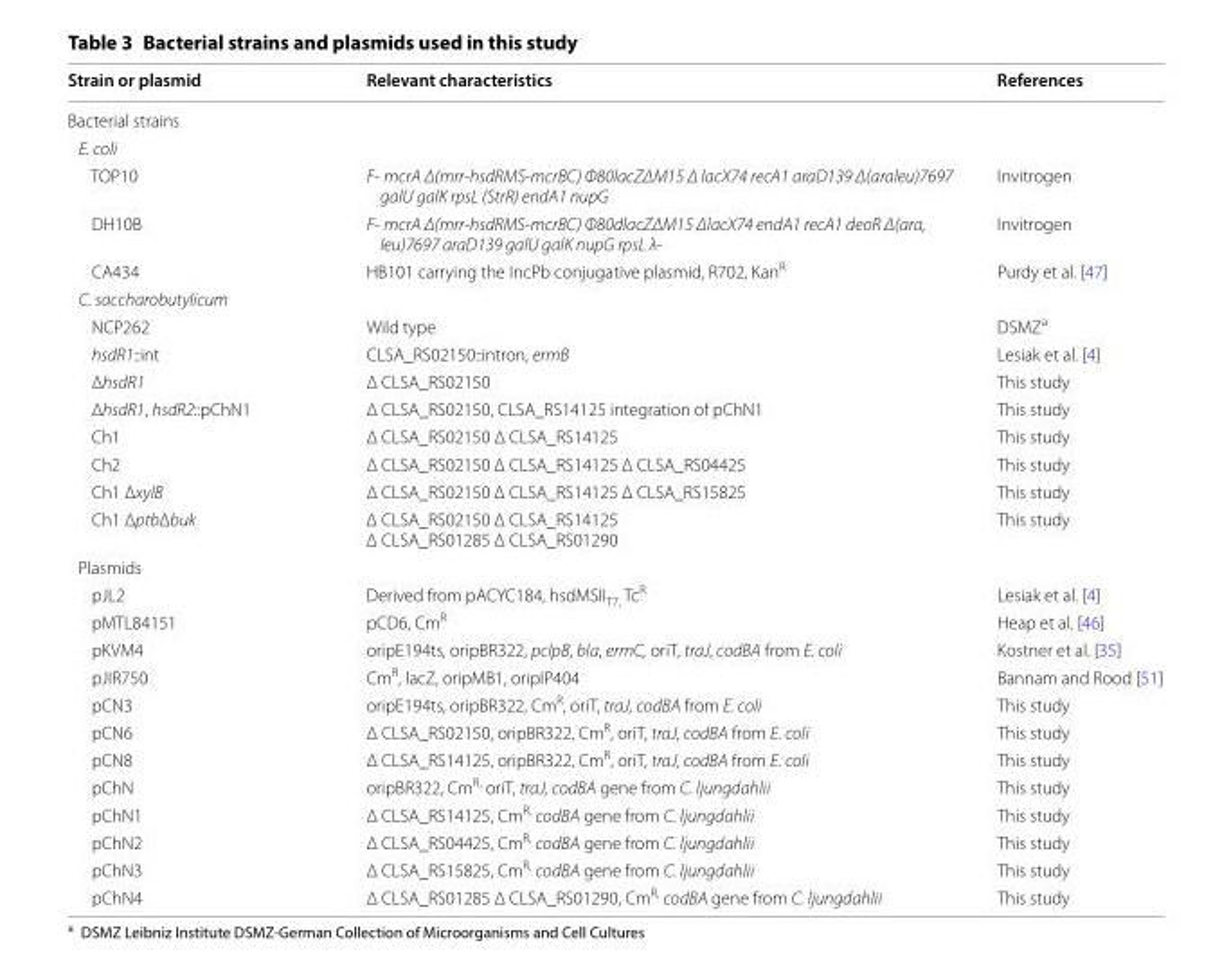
<table><thead><tr><td>Strain or plasmid</td><td>Relevant characteristics</td><td>References</td></tr></thead><tbody><tr><td colspan="3">Bacterial strains</td></tr><tr><td colspan="3">E. coli</td></tr><tr><td>TOP10</td><td>F‑ mcrA Δ(mrr‑hsdRMS‑mcrBC) Φ80lacZΔM15 Δ lacX74 recA1 araD139 Δ(araleu)7697 galU galK rpsL (StrR) endA1 nupG</td><td>Invitrogen</td></tr><tr><td>DH10B</td><td>F‑ mcrA Δ(mrr‑hsdRMS‑mcrBC) Φ80dlacZΔM15 ΔlacX74 endA1 recA1 deoR Δ(ara, leu)7697 araD139 galU galK nupG rpsL λ‑</td><td>Invitrogen</td></tr><tr><td>CA434</td><td>HB101 carrying the IncPb conjugative plasmid, R702, Kan<sup>R</sup></td><td>Purdy et al. [47]</td></tr><tr><td colspan="3">C. saccharobutylicum</td></tr><tr><td>NCP262</td><td>Wild type</td><td>DSMZ<sup>a</sup></td></tr><tr><td>hsdR1::int</td><td>CLSA_RS02150::intron, ermB</td><td>Lesiak et al. [4]</td></tr><tr><td>ΔhsdR1</td><td>Δ CLSA_RS02150</td><td>This study</td></tr><tr><td>ΔhsdR1, hsdR2::pChN1</td><td>Δ CLSA_RS02150, CLSA_RS14125 integration of pChN1</td><td>This study</td></tr><tr><td>Ch1</td><td>Δ CLSA_RS02150 Δ CLSA_RS14125</td><td>This study</td></tr><tr><td>Ch2</td><td>Δ CLSA_RS02150 Δ CLSA_RS14125 Δ CLSA_RS04425</td><td>This study</td></tr><tr><td>Ch1 ΔxylB</td><td>Δ CLSA_RS02150 Δ CLSA_RS14125 Δ CLSA_RS15825</td><td>This study</td></tr><tr><td>Ch1 ΔptbΔbuk</td><td>Δ CLSA_RS02150 Δ CLSA_RS14125 Δ CLSA_RS01285 Δ CLSA_RS01290</td><td>This study</td></tr><tr><td colspan="3">Plasmids</td></tr><tr><td>pJL2</td><td>Derived from pACYC184, hsdMSII<sub>T7,</sub> Tc<sup>R</sup></td><td>Lesiak et al. [4]</td></tr><tr><td>pMTL84151</td><td>pCD6, Cm<sup>R</sup></td><td>Heap et al. [46]</td></tr><tr><td>pKVM4</td><td>oripE194ts, oripBR322, pclpB, bla, ermC, oriT, traJ, codBA from E. coli</td><td>Kostner et al. [35]</td></tr><tr><td>pJIR750</td><td>Cm<sup>R</sup>, lacZ, oripMB1, oripIP404</td><td>Bannam and Rood [51]</td></tr><tr><td>pCN3</td><td>oripE194ts, oripBR322, Cm<sup>R</sup>, oriT, traJ, codBA from E. coli</td><td>This study</td></tr><tr><td>pCN6</td><td>Δ CLSA_RS02150, oripBR322, Cm<sup>R</sup>, oriT, traJ, codBA from E. coli</td><td>This study</td></tr><tr><td>pCN8</td><td>Δ CLSA_RS14125, oripBR322, Cm<sup>R</sup>, oriT, traJ, codBA from E. coli</td><td>This study</td></tr><tr><td>pChN</td><td>oripBR322, Cm<sup>R,</sup> oriT, traJ, codBA gene from C. ljungdahlii</td><td>This study</td></tr><tr><td>pChN1</td><td>Δ CLSA_RS14125, Cm<sup>R,</sup> codBA gene from C. ljungdahlii</td><td>This study</td></tr><tr><td>pChN2</td><td>Δ CLSA_RS04425, Cm<sup>R,</sup> codBA gene from C. ljungdahlii</td><td>This study</td></tr><tr><td>pChN3</td><td>Δ CLSA_RS15825, Cm<sup>R,</sup> codBA gene from C. ljungdahlii</td><td>This study</td></tr><tr><td>pChN4</td><td>Δ CLSA_RS01285 Δ CLSA_RS01290, Cm<sup>R,</sup> codBA gene from C. ljungdahlii</td><td>This study</td></tr></tbody></table>